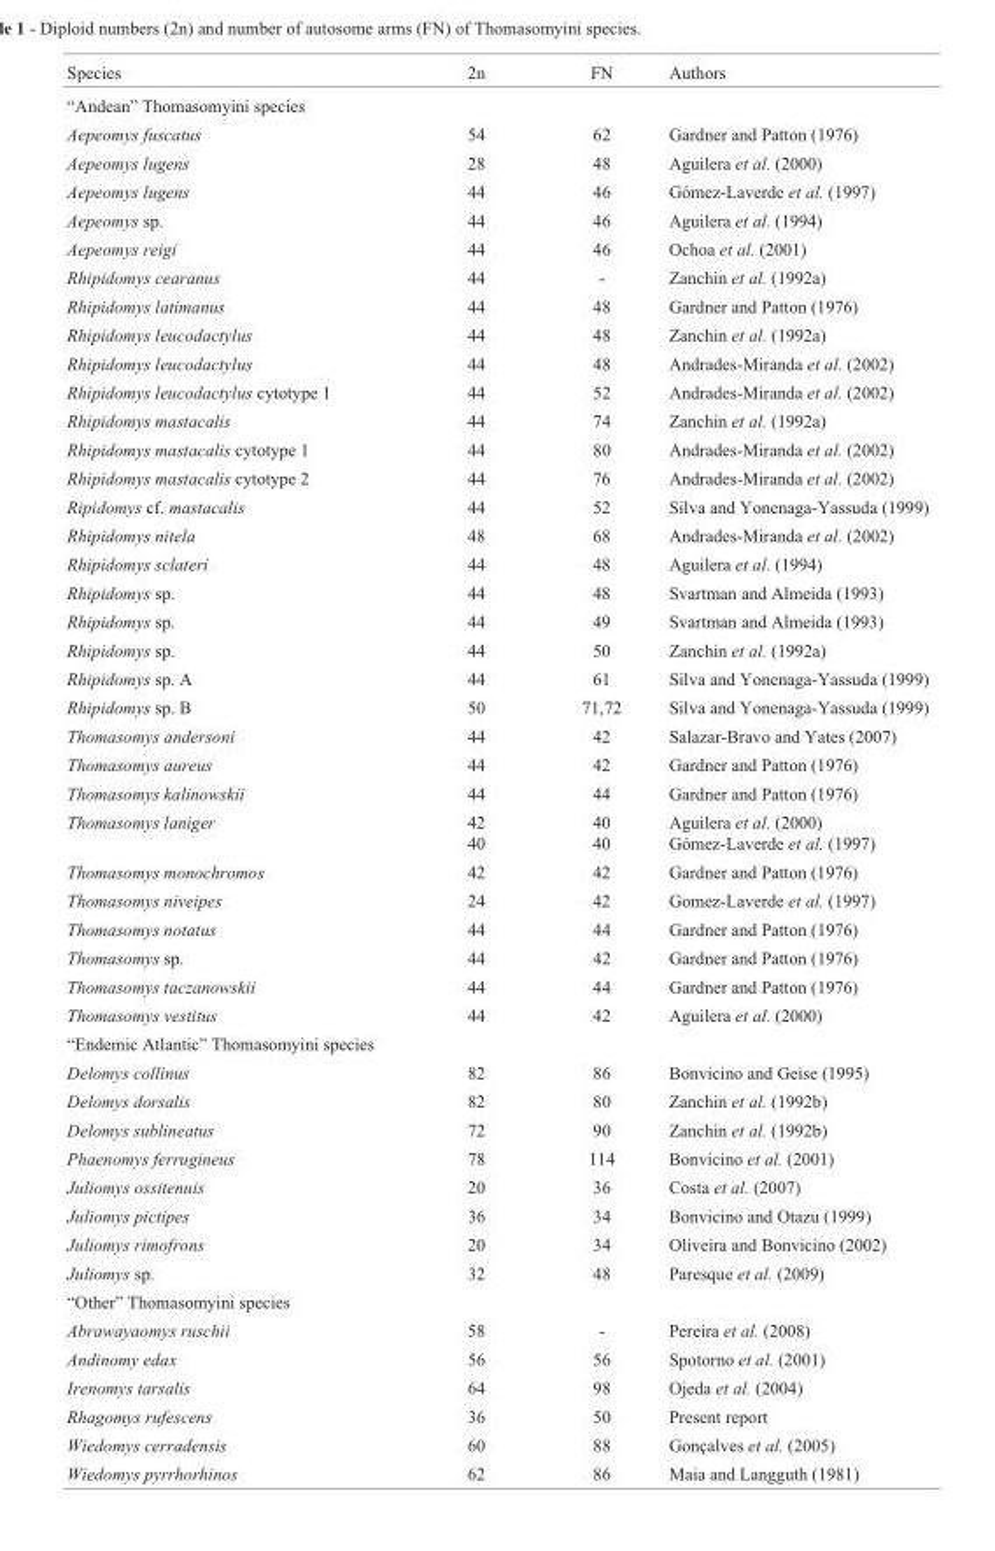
<table><thead><tr><td>Species</td><td>2n</td><td>FN</td><td>Authors</td></tr></thead><tbody><tr><td colspan="4">“Andean” Thomasomyini species</td></tr><tr><td>Aepeomys fuscatus</td><td>54</td><td>62</td><td>Gardner and Patton (1976)</td></tr><tr><td>Aepeomys lugens</td><td>28</td><td>48</td><td>Aguilera et al. (2000)</td></tr><tr><td>Aepeomys lugens</td><td>44</td><td>46</td><td>Gómez-Laverde et al. (1997)</td></tr><tr><td>Aepeomys sp.</td><td>44</td><td>46</td><td>Aguilera et al. (1994)</td></tr><tr><td>Aepeomys reigi</td><td>44</td><td>46</td><td>Ochoa et al. (2001)</td></tr><tr><td>Rhipidomys cearanus</td><td>44</td><td>-</td><td>Zanchin et al. (1992a)</td></tr><tr><td>Rhipidomys latimanus</td><td>44</td><td>48</td><td>Gardner and Patton (1976)</td></tr><tr><td>Rhipidomys leucodactylus</td><td>44</td><td>48</td><td>Zanchin et al. (1992a)</td></tr><tr><td>Rhipidomys leucodactylus</td><td>44</td><td>48</td><td>Andrades-Miranda et al. (2002)</td></tr><tr><td>Rhipidomys leucodactylus cytotype 1</td><td>44</td><td>52</td><td>Andrades-Miranda et al. (2002)</td></tr><tr><td>Rhipidomys mastacalis</td><td>44</td><td>74</td><td>Zanchin et al. (1992a)</td></tr><tr><td>Rhipidomys mastacalis cytotype 1</td><td>44</td><td>80</td><td>Andrades-Miranda et al. (2002)</td></tr><tr><td>Rhipidomys mastacalis cytotype 2</td><td>44</td><td>76</td><td>Andrades-Miranda et al. (2002)</td></tr><tr><td>Ripidomys cf. mastacalis</td><td>44</td><td>52</td><td>Silva and Yonenaga-Yassuda (1999)</td></tr><tr><td>Rhipidomys nitela</td><td>48</td><td>68</td><td>Andrades-Miranda et al. (2002)</td></tr><tr><td>Rhipidomys sclateri</td><td>44</td><td>48</td><td>Aguilera et al. (1994)</td></tr><tr><td>Rhipidomys sp.</td><td>44</td><td>48</td><td>Svartman and Almeida (1993)</td></tr><tr><td>Rhipidomys sp.</td><td>44</td><td>49</td><td>Svartman and Almeida (1993)</td></tr><tr><td>Rhipidomys sp.</td><td>44</td><td>50</td><td>Zanchin et al. (1992a)</td></tr><tr><td>Rhipidomys sp. A</td><td>44</td><td>61</td><td>Silva and Yonenaga-Yassuda (1999)</td></tr><tr><td>Rhipidomys sp. B</td><td>50</td><td>71,72</td><td>Silva and Yonenaga-Yassuda (1999)</td></tr><tr><td>Thomasomys andersoni</td><td>44</td><td>42</td><td>Salazar-Bravo and Yates (2007)</td></tr><tr><td>Thomasomys aureus</td><td>44</td><td>42</td><td>Gardner and Patton (1976)</td></tr><tr><td>Thomasomys kalinowskii</td><td>44</td><td>44</td><td>Gardner and Patton (1976)</td></tr><tr><td>Thomasomys laniger</td><td>42 40</td><td>40 40</td><td>Aguilera et al. (2000) Gómez-Laverde et al. (1997)</td></tr><tr><td>Thomasomys monochromos</td><td>42</td><td>42</td><td>Gardner and Patton (1976)</td></tr><tr><td>Thomasomys niveipes</td><td>24</td><td>42</td><td>Gomez-Laverde et al. (1997)</td></tr><tr><td>Thomasomys notatus</td><td>44</td><td>44</td><td>Gardner and Patton (1976)</td></tr><tr><td>Thomasomys sp.</td><td>44</td><td>42</td><td>Gardner and Patton (1976)</td></tr><tr><td>Thomasomys taczanowskii</td><td>44</td><td>44</td><td>Gardner and Patton (1976)</td></tr><tr><td>Thomasomys vestitus</td><td>44</td><td>42</td><td>Aguilera et al. (2000)</td></tr><tr><td colspan="4">“Endemic Atlantic” Thomasomyini species</td></tr><tr><td>Delomys collinus</td><td>82</td><td>86</td><td>Bonvicino and Geise (1995)</td></tr><tr><td>Delomys dorsalis</td><td>82</td><td>80</td><td>Zanchin et al. (1992b)</td></tr><tr><td>Delomys sublineatus</td><td>72</td><td>90</td><td>Zanchin et al. (1992b)</td></tr><tr><td>Phaenomys ferrugineus</td><td>78</td><td>114</td><td>Bonvicino et al. (2001)</td></tr><tr><td>Juliomys ossitenuis</td><td>20</td><td>36</td><td>Costa et al. (2007)</td></tr><tr><td>Juliomys pictipes</td><td>36</td><td>34</td><td>Bonvicino and Otazu (1999)</td></tr><tr><td>Juliomys rimofrons</td><td>20</td><td>34</td><td>Oliveira and Bonvicino (2002)</td></tr><tr><td>Juliomys sp.</td><td>32</td><td>48</td><td>Paresque et al. (2009)</td></tr><tr><td colspan="4">“Other” Thomasomyini species</td></tr><tr><td>Abrawayaomys ruschii</td><td>58</td><td>-</td><td>Pereira et al. (2008)</td></tr><tr><td>Andinomy edax</td><td>56</td><td>56</td><td>Spotorno et al. (2001)</td></tr><tr><td>Irenomys tarsalis</td><td>64</td><td>98</td><td>Ojeda et al. (2004)</td></tr><tr><td>Rhagomys rufescens</td><td>36</td><td>50</td><td>Present report</td></tr><tr><td>Wiedomys cerradensis</td><td>60</td><td>88</td><td>Gonçalves et al. (2005)</td></tr><tr><td>Wiedomys pyrrhorhinos</td><td>62</td><td>86</td><td>Maia and Langguth (1981)</td></tr></tbody></table>